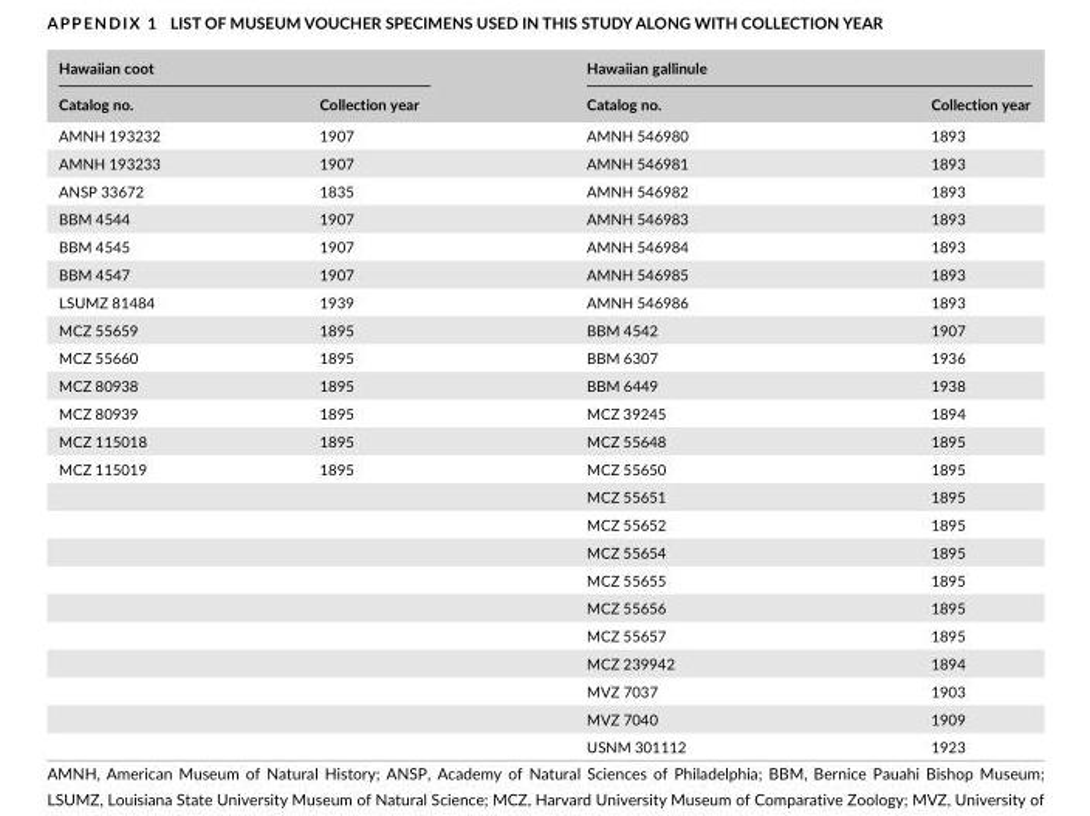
<table><thead><tr><td colspan="2">Hawaiian coot</td><td colspan="2">Hawaiian gallinule</td></tr><tr><td>Catalog no.</td><td>Collection year</td><td>Catalog no.</td><td>Collection year</td></tr></thead><tbody><tr><td>AMNH 193232</td><td>1907</td><td>AMNH 546980</td><td>1893</td></tr><tr><td>AMNH 193233</td><td>1907</td><td>AMNH 546981</td><td>1893</td></tr><tr><td>ANSP 33672</td><td>1835</td><td>AMNH 546982</td><td>1893</td></tr><tr><td>BBM 4544</td><td>1907</td><td>AMNH 546983</td><td>1893</td></tr><tr><td>BBM 4545</td><td>1907</td><td>AMNH 546984</td><td>1893</td></tr><tr><td>BBM 4547</td><td>1907</td><td>AMNH 546985</td><td>1893</td></tr><tr><td>LSUMZ 81484</td><td>1939</td><td>AMNH 546986</td><td>1893</td></tr><tr><td>MCZ 55659</td><td>1895</td><td>BBM 4542</td><td>1907</td></tr><tr><td>MCZ 55660</td><td>1895</td><td>BBM 6307</td><td>1936</td></tr><tr><td>MCZ 80938</td><td>1895</td><td>BBM 6449</td><td>1938</td></tr><tr><td>MCZ 80939</td><td>1895</td><td>MCZ 39245</td><td>1894</td></tr><tr><td>MCZ 115018</td><td>1895</td><td>MCZ 55648</td><td>1895</td></tr><tr><td rowspan="11">MCZ 115019</td><td>1895</td><td>MCZ 55650</td><td>1895</td></tr><tr><td></td><td>MCZ 55651</td><td>1895</td></tr><tr><td></td><td>MCZ 55652</td><td>1895</td></tr><tr><td></td><td>MCZ 55654</td><td>1895</td></tr><tr><td></td><td>MCZ 55655</td><td>1895</td></tr><tr><td></td><td>MCZ 55656</td><td>1895</td></tr><tr><td></td><td>MCZ 55657</td><td>1895</td></tr><tr><td></td><td>MCZ 239942</td><td>1894</td></tr><tr><td></td><td>MVZ 7037</td><td>1903</td></tr><tr><td></td><td>MVZ 7040</td><td>1909</td></tr><tr><td></td><td>USNM 301112</td><td>1923</td></tr></tbody></table>